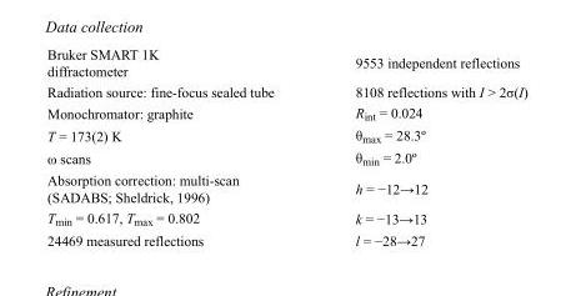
<table><tbody><tr><td>Bruker SMART 1K diffractometer</td><td>9553 independent reflections</td></tr><tr><td>Radiation source: fine-focus sealed tube</td><td>8108 reflections with I &gt; 2σ(I)</td></tr><tr><td>Monochromator: graphite</td><td>R<sub>int</sub> = 0.024</td></tr><tr><td>T = 173(2) K</td><td>θ<sub>max</sub> = 28.3º</td></tr><tr><td>ω scans</td><td>θ<sub>min</sub> = 2.0º</td></tr><tr><td>Absorption correction: multi-scan (SADABS; Sheldrick, 1996)</td><td>h = −12→12</td></tr><tr><td>T<sub>min</sub> = 0.617, T<sub>max</sub> = 0.802</td><td>k = −13→13</td></tr><tr><td>24469 measured reflections</td><td>l = −28→27</td></tr></tbody></table>